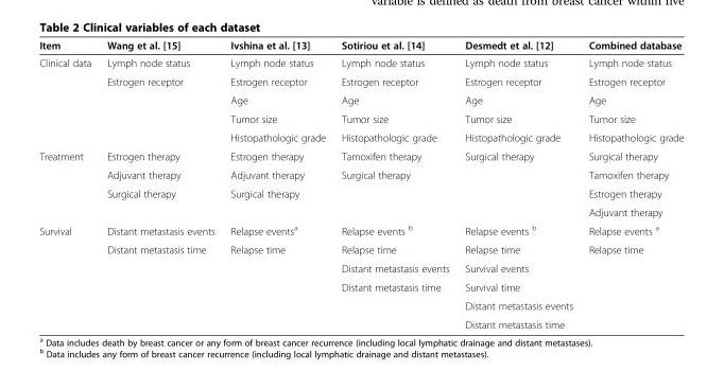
<table><thead><tr><td>Item</td><td>Wang et al. [15]</td><td>Ivshina et al. [13]</td><td>Sotiriou et al. [14]</td><td>Desmedt et al. [12]</td><td>Combined database</td></tr></thead><tbody><tr><td rowspan="5">Clinical data</td><td>Lymph node status</td><td>Lymph node status</td><td>Lymph node status</td><td>Lymph node status</td><td>Lymph node status</td></tr><tr><td>Estrogen receptor</td><td>Estrogen receptor</td><td>Estrogen receptor</td><td>Estrogen receptor</td><td>Estrogen receptor</td></tr><tr><td></td><td>Age</td><td>Age</td><td>Age</td><td>Age</td></tr><tr><td></td><td>Tumor size</td><td>Tumor size</td><td>Tumor size</td><td>Tumor size</td></tr><tr><td></td><td>Histopathologic grade</td><td>Histopathologic grade</td><td>Histopathologic grade</td><td>Histopathologic grade</td></tr><tr><td rowspan="4">Treatment</td><td>Estrogen therapy</td><td>Estrogen therapy</td><td>Tamoxifen therapy</td><td>Surgical therapy</td><td>Surgical therapy</td></tr><tr><td>Adjuvant therapy</td><td>Adjuvant therapy</td><td>Surgical therapy</td><td></td><td>Tamoxifen therapy</td></tr><tr><td>Surgical therapy</td><td>Surgical therapy</td><td></td><td></td><td>Estrogen therapy</td></tr><tr><td></td><td></td><td></td><td></td><td>Adjuvant therapy</td></tr><tr><td rowspan="6">Survival</td><td>Distant metastasis events</td><td>Relapse events<sup>a</sup></td><td>Relapse events <sup>b</sup></td><td>Relapse events <sup>b</sup></td><td>Relapse events <sup>a</sup></td></tr><tr><td>Distant metastasis time</td><td>Relapse time</td><td>Relapse time</td><td>Relapse time</td><td>Relapse time</td></tr><tr><td></td><td></td><td>Distant metastasis events</td><td>Survival events</td><td></td></tr><tr><td></td><td></td><td>Distant metastasis time</td><td>Survival time</td><td></td></tr><tr><td></td><td></td><td></td><td>Distant metastasis events</td><td></td></tr><tr><td></td><td></td><td></td><td>Distant metastasis time</td><td></td></tr></tbody></table>